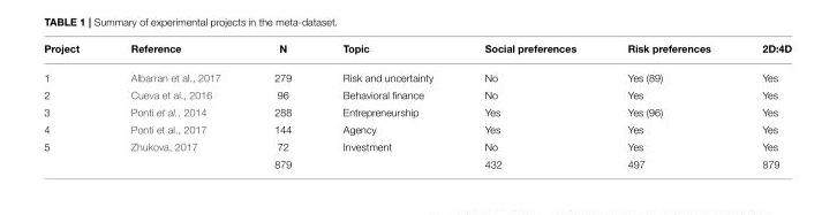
<table><thead><tr><td>Project</td><td>Reference</td><td>N</td><td>Topic</td><td>Social preferences</td><td>Risk preferences</td><td>2D:4D</td></tr></thead><tbody><tr><td>1</td><td>Albarran et al., 2017</td><td>279</td><td>Risk and uncertainty</td><td>No</td><td>Yes (89)</td><td>Yes</td></tr><tr><td>2</td><td>Cueva et al., 2016</td><td>96</td><td>Behavioral finance</td><td>No</td><td>Yes</td><td>Yes</td></tr><tr><td>3</td><td>Ponti et al., 2014</td><td>288</td><td>Entrepreneurship</td><td>Yes</td><td>Yes (96)</td><td>Yes</td></tr><tr><td>4</td><td>Ponti et al., 2017</td><td>144</td><td>Agency</td><td>Yes</td><td>Yes</td><td>Yes</td></tr><tr><td rowspan="2">5</td><td>Zhukova, 2017</td><td>72</td><td>Investment</td><td>No</td><td>Yes</td><td>Yes</td></tr><tr><td></td><td>879</td><td></td><td>432</td><td>497</td><td>879</td></tr></tbody></table>